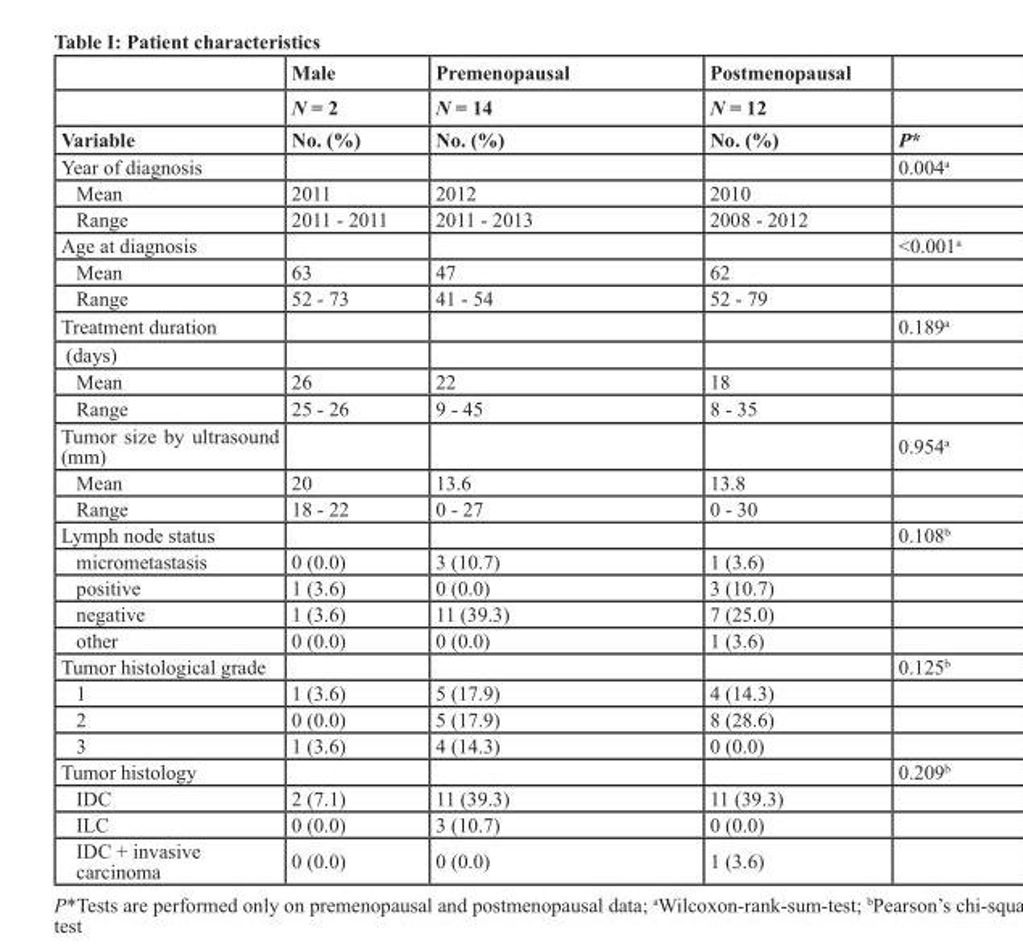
<table><thead><tr><td rowspan="3">Variable</td><td rowspan="3">Male N = 2 No. (%)</td><td rowspan="3">Premenopausal N = 14 No. (%)</td><td rowspan="3">Postmenopausal N = 12 No. (%)</td><td rowspan="3">P*</td></tr><tr></tr><tr></tr></thead><tbody><tr><td>Year of diagnosis</td><td></td><td></td><td></td><td>0.004<sup>a</sup></td></tr><tr><td>Mean</td><td>2011</td><td>2012</td><td>2010</td><td></td></tr><tr><td>Range</td><td>2011 - 2011</td><td>2011 - 2013</td><td>2008 - 2012</td><td></td></tr><tr><td>Age at diagnosis</td><td></td><td></td><td></td><td>&lt;0.001<sup>a</sup></td></tr><tr><td>Mean</td><td>63</td><td>47</td><td>62</td><td></td></tr><tr><td>Range</td><td>52 - 73</td><td>41 - 54</td><td>52 - 79</td><td></td></tr><tr><td>Treatment duration</td><td></td><td></td><td></td><td>0.189<sup>a</sup></td></tr><tr><td colspan="5">(days)</td></tr><tr><td>Mean</td><td>26</td><td>22</td><td>18</td><td></td></tr><tr><td>Range</td><td>25 - 26</td><td>9 - 45</td><td>8 - 35</td><td></td></tr><tr><td>Tumor size by ultrasound (mm)</td><td></td><td></td><td></td><td>0.954<sup>a</sup></td></tr><tr><td>Mean</td><td>20</td><td>13.6</td><td>13.8</td><td></td></tr><tr><td>Range</td><td>18 - 22</td><td>0 - 27</td><td>0 - 30</td><td></td></tr><tr><td>Lymph node status</td><td></td><td></td><td></td><td>0.108<sup>b</sup></td></tr><tr><td>micrometastasis</td><td>0 (0.0)</td><td>3 (10.7)</td><td>1 (3.6)</td><td></td></tr><tr><td>positive</td><td>1 (3.6)</td><td>0 (0.0)</td><td>3 (10.7)</td><td></td></tr><tr><td>negative</td><td>1 (3.6)</td><td>11 (39.3)</td><td>7 (25.0)</td><td></td></tr><tr><td>other</td><td>0 (0.0)</td><td>0 (0.0)</td><td>1 (3.6)</td><td></td></tr><tr><td>Tumor histological grade</td><td></td><td></td><td></td><td>0.125<sup>b</sup></td></tr><tr><td>1</td><td>1 (3.6)</td><td>5 (17.9)</td><td>4 (14.3)</td><td></td></tr><tr><td>2</td><td>0 (0.0)</td><td>5 (17.9)</td><td>8 (28.6)</td><td></td></tr><tr><td>3</td><td>1 (3.6)</td><td>4 (14.3)</td><td>0 (0.0)</td><td></td></tr><tr><td>Tumor histology</td><td></td><td></td><td></td><td>0.209<sup>b</sup></td></tr><tr><td>IDC</td><td>2 (7.1)</td><td>11 (39.3)</td><td>11 (39.3)</td><td></td></tr><tr><td>ILC</td><td>0 (0.0)</td><td>3 (10.7)</td><td>0 (0.0)</td><td></td></tr><tr><td>IDC + invasive carcinoma</td><td>0 (0.0)</td><td>0 (0.0)</td><td>1 (3.6)</td><td></td></tr></tbody></table>